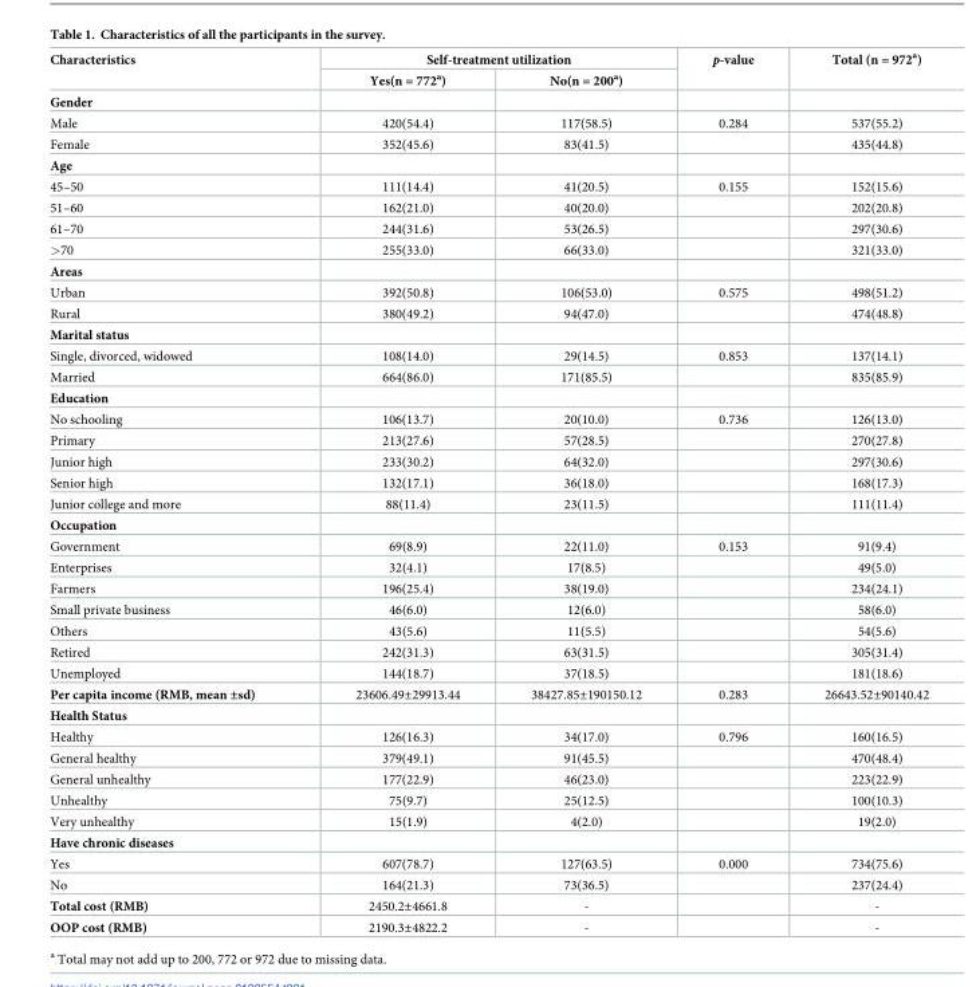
<table><thead><tr><td rowspan="2">Characteristics</td><td colspan="2">Self-treatment utilization</td><td rowspan="2">p-value</td><td rowspan="2">Total (n = 972<sup>a</sup>)</td></tr><tr><td>Yes(n = 772<sup>a</sup>)</td><td>No(n = 200<sup>a</sup>)</td></tr></thead><tbody><tr><td colspan="5">Gender</td></tr><tr><td>Male</td><td>420(54.4)</td><td>117(58.5)</td><td>0.284</td><td>537(55.2)</td></tr><tr><td>Female</td><td>352(45.6)</td><td>83(41.5)</td><td></td><td>435(44.8)</td></tr><tr><td colspan="5">Age</td></tr><tr><td>45–50</td><td>111(14.4)</td><td>41(20.5)</td><td>0.155</td><td>152(15.6)</td></tr><tr><td>51–60</td><td>162(21.0)</td><td>40(20.0)</td><td></td><td>202(20.8)</td></tr><tr><td>61–70</td><td>244(31.6)</td><td>53(26.5)</td><td></td><td>297(30.6)</td></tr><tr><td>&gt;70</td><td>255(33.0)</td><td>66(33.0)</td><td></td><td>321(33.0)</td></tr><tr><td colspan="5">Areas</td></tr><tr><td>Urban</td><td>392(50.8)</td><td>106(53.0)</td><td>0.575</td><td>498(51.2)</td></tr><tr><td>Rural</td><td>380(49.2)</td><td>94(47.0)</td><td></td><td>474(48.8)</td></tr><tr><td colspan="5">Marital status</td></tr><tr><td>Single, divorced, widowed</td><td>108(14.0)</td><td>29(14.5)</td><td>0.853</td><td>137(14.1)</td></tr><tr><td>Married</td><td>664(86.0)</td><td>171(85.5)</td><td></td><td>835(85.9)</td></tr><tr><td colspan="5">Education</td></tr><tr><td>No schooling</td><td>106(13.7)</td><td>20(10.0)</td><td>0.736</td><td>126(13.0)</td></tr><tr><td>Primary</td><td>213(27.6)</td><td>57(28.5)</td><td></td><td>270(27.8)</td></tr><tr><td>Junior high</td><td>233(30.2)</td><td>64(32.0)</td><td></td><td>297(30.6)</td></tr><tr><td>Senior high</td><td>132(17.1)</td><td>36(18.0)</td><td></td><td>168(17.3)</td></tr><tr><td>Junior college and more</td><td>88(11.4)</td><td>23(11.5)</td><td></td><td>111(11.4)</td></tr><tr><td colspan="5">Occupation</td></tr><tr><td>Government</td><td>69(8.9)</td><td>22(11.0)</td><td>0.153</td><td>91(9.4)</td></tr><tr><td>Enterprises</td><td>32(4.1)</td><td>17(8.5)</td><td></td><td>49(5.0)</td></tr><tr><td>Farmers</td><td>196(25.4)</td><td>38(19.0)</td><td></td><td>234(24.1)</td></tr><tr><td>Small private business</td><td>46(6.0)</td><td>12(6.0)</td><td></td><td>58(6.0)</td></tr><tr><td>Others</td><td>43(5.6)</td><td>11(5.5)</td><td></td><td>54(5.6)</td></tr><tr><td>Retired</td><td>242(31.3)</td><td>63(31.5)</td><td></td><td>305(31.4)</td></tr><tr><td>Unemployed</td><td>144(18.7)</td><td>37(18.5)</td><td></td><td>181(18.6)</td></tr><tr><td>Per capita income (RMB, mean ±sd)</td><td>23606.49±29913.44</td><td>38427.85±190150.12</td><td>0.283</td><td>26643.52±90140.42</td></tr><tr><td colspan="5">Health Status</td></tr><tr><td>Healthy</td><td>126(16.3)</td><td>34(17.0)</td><td>0.796</td><td>160(16.5)</td></tr><tr><td>General healthy</td><td>379(49.1)</td><td>91(45.5)</td><td></td><td>470(48.4)</td></tr><tr><td>General unhealthy</td><td>177(22.9)</td><td>46(23.0)</td><td></td><td>223(22.9)</td></tr><tr><td>Unhealthy</td><td>75(9.7)</td><td>25(12.5)</td><td></td><td>100(10.3)</td></tr><tr><td>Very unhealthy</td><td>15(1.9)</td><td>4(2.0)</td><td></td><td>19(2.0)</td></tr><tr><td colspan="5">Have chronic diseases</td></tr><tr><td>Yes</td><td>607(78.7)</td><td>127(63.5)</td><td>0.000</td><td>734(75.6)</td></tr><tr><td>No</td><td>164(21.3)</td><td>73(36.5)</td><td></td><td>237(24.4)</td></tr><tr><td>Total cost (RMB)</td><td>2450.2±4661.8</td><td>-</td><td></td><td>-</td></tr><tr><td>OOP cost (RMB)</td><td>2190.3±4822.2</td><td>-</td><td></td><td>-</td></tr></tbody></table>